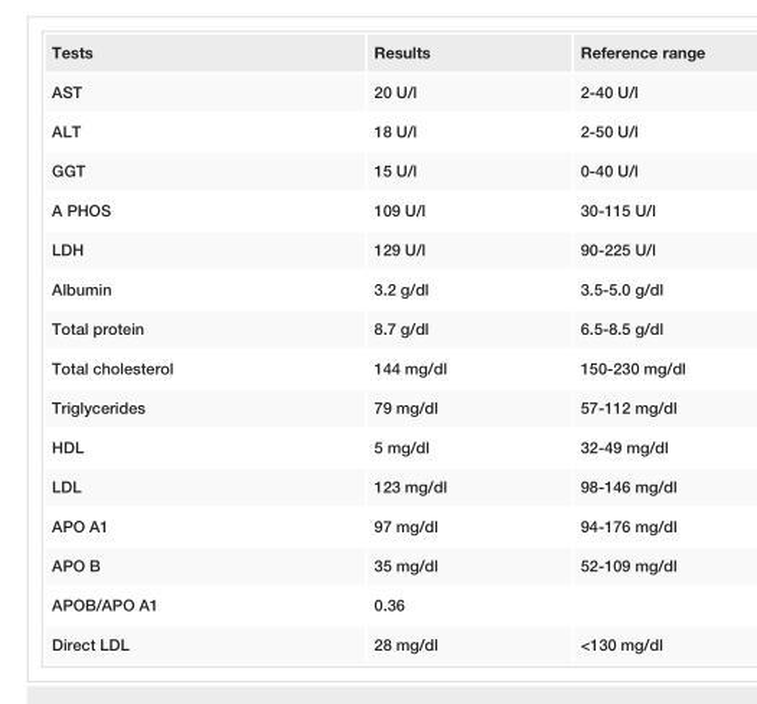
<table><tbody><tr><td>Tests</td><td>Results</td><td>Reference range</td></tr><tr><td>AST</td><td>20 U/l</td><td>2-40 U/l</td></tr><tr><td>ALT</td><td>18 U/l</td><td>2-50 U/l</td></tr><tr><td>GGT</td><td>15 U/l</td><td>0-40 U/l</td></tr><tr><td>A PHOS</td><td>109 U/l</td><td>30-115 U/l</td></tr><tr><td>LDH</td><td>129 U/l</td><td>90-225 U/l</td></tr><tr><td>Albumin</td><td>3.2 g/dl</td><td>3.5-5.0 g/dl</td></tr><tr><td>Total protein</td><td>8.7 g/dl</td><td>6.5-8.5 g/dl</td></tr><tr><td>Total cholesterol</td><td>144 mg/dl</td><td>150-230 mg/dl</td></tr><tr><td>Triglycerides</td><td>79 mg/dl</td><td>57-112 mg/dl</td></tr><tr><td>HDL</td><td>5 mg/dl</td><td>32-49 mg/dl</td></tr><tr><td>LDL</td><td>123 mg/dl</td><td>98-146 mg/dl</td></tr><tr><td>APO A1</td><td>97 mg/dl</td><td>94-176 mg/dl</td></tr><tr><td>APO B</td><td>35 mg/dl</td><td>52-109 mg/dl</td></tr><tr><td>APOB/APO A1</td><td>0.36</td><td></td></tr><tr><td>Direct LDL</td><td>28 mg/dl</td><td>&lt;130 mg/dl</td></tr></tbody></table>